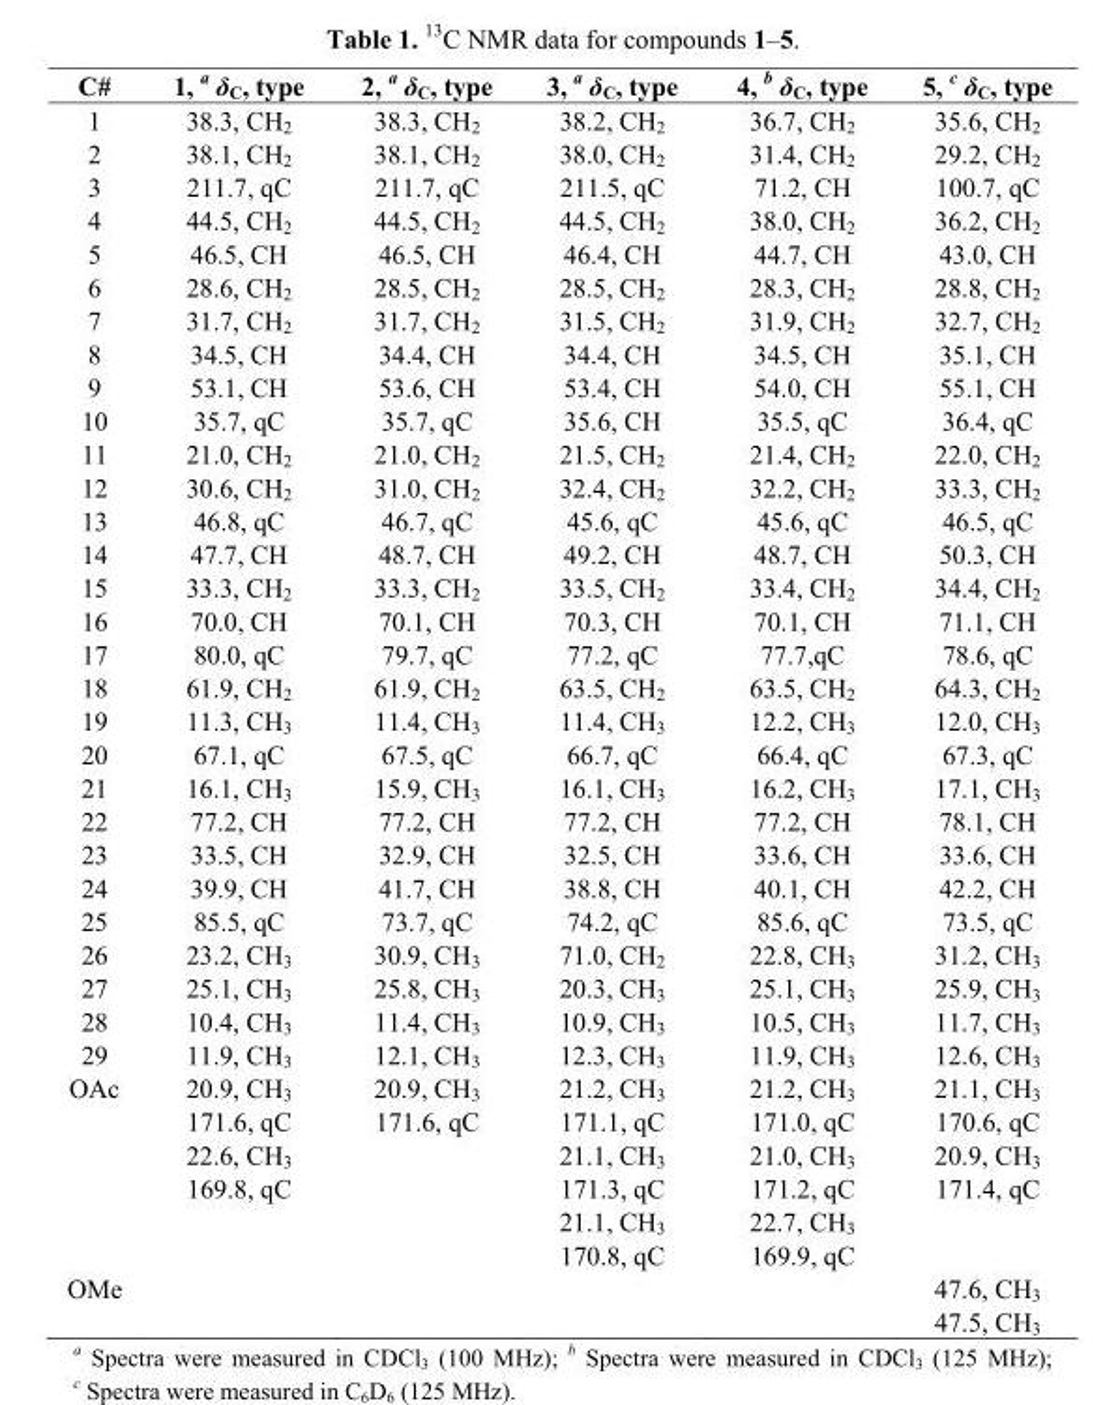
<table><thead><tr><td>C#</td><td>1, a δ<sub>C</sub>, type</td><td>2, a δ<sub>C</sub>, type</td><td>3, a δ<sub>C</sub>, type</td><td>4, b δ<sub>C</sub>, type</td><td>5, c δ<sub>C</sub>, type</td></tr></thead><tbody><tr><td>1</td><td>38.3, CH<sub>2</sub></td><td>38.3, CH<sub>2</sub></td><td>38.2, CH<sub>2</sub></td><td>36.7, CH<sub>2</sub></td><td>35.6, CH<sub>2</sub></td></tr><tr><td>2</td><td>38.1, CH<sub>2</sub></td><td>38.1, CH<sub>2</sub></td><td>38.0, CH<sub>2</sub></td><td>31.4, CH<sub>2</sub></td><td>29.2, CH<sub>2</sub></td></tr><tr><td>3</td><td>211.7, qC</td><td>211.7, qC</td><td>211.5, qC</td><td>71.2, CH</td><td>100.7, qC</td></tr><tr><td>4</td><td>44.5, CH<sub>2</sub></td><td>44.5, CH<sub>2</sub></td><td>44.5, CH<sub>2</sub></td><td>38.0, CH<sub>2</sub></td><td>36.2, CH<sub>2</sub></td></tr><tr><td>5</td><td>46.5, CH</td><td>46.5, CH</td><td>46.4, CH</td><td>44.7, CH</td><td>43.0, CH</td></tr><tr><td>6</td><td>28.6, CH<sub>2</sub></td><td>28.5, CH<sub>2</sub></td><td>28.5, CH<sub>2</sub></td><td>28.3, CH<sub>2</sub></td><td>28.8, CH<sub>2</sub></td></tr><tr><td>7</td><td>31.7, CH<sub>2</sub></td><td>31.7, CH<sub>2</sub></td><td>31.5, CH<sub>2</sub></td><td>31.9, CH<sub>2</sub></td><td>32.7, CH<sub>2</sub></td></tr><tr><td>8</td><td>34.5, CH</td><td>34.4, CH</td><td>34.4, CH</td><td>34.5, CH</td><td>35.1, CH</td></tr><tr><td>9</td><td>53.1, CH</td><td>53.6, CH</td><td>53.4, CH</td><td>54.0, CH</td><td>55.1, CH</td></tr><tr><td>10</td><td>35.7, qC</td><td>35.7, qC</td><td>35.6, CH</td><td>35.5, qC</td><td>36.4, qC</td></tr><tr><td>11</td><td>21.0, CH<sub>2</sub></td><td>21.0, CH<sub>2</sub></td><td>21.5, CH<sub>2</sub></td><td>21.4, CH<sub>2</sub></td><td>22.0, CH<sub>2</sub></td></tr><tr><td>12</td><td>30.6, CH<sub>2</sub></td><td>31.0, CH<sub>2</sub></td><td>32.4, CH<sub>2</sub></td><td>32.2, CH<sub>2</sub></td><td>33.3, CH<sub>2</sub></td></tr><tr><td>13</td><td>46.8, qC</td><td>46.7, qC</td><td>45.6, qC</td><td>45.6, qC</td><td>46.5, qC</td></tr><tr><td>14</td><td>47.7, CH</td><td>48.7, CH</td><td>49.2, CH</td><td>48.7, CH</td><td>50.3, CH</td></tr><tr><td>15</td><td>33.3, CH<sub>2</sub></td><td>33.3, CH<sub>2</sub></td><td>33.5, CH<sub>2</sub></td><td>33.4, CH<sub>2</sub></td><td>34.4, CH<sub>2</sub></td></tr><tr><td>16</td><td>70.0, CH</td><td>70.1, CH</td><td>70.3, CH</td><td>70.1, CH</td><td>71.1, CH</td></tr><tr><td>17</td><td>80.0, qC</td><td>79.7, qC</td><td>77.2, qC</td><td>77.7,qC</td><td>78.6, qC</td></tr><tr><td>18</td><td>61.9, CH<sub>2</sub></td><td>61.9, CH<sub>2</sub></td><td>63.5, CH<sub>2</sub></td><td>63.5, CH<sub>2</sub></td><td>64.3, CH<sub>2</sub></td></tr><tr><td>19</td><td>11.3, CH<sub>3</sub></td><td>11.4, CH<sub>3</sub></td><td>11.4, CH<sub>3</sub></td><td>12.2, CH<sub>3</sub></td><td>12.0, CH<sub>3</sub></td></tr><tr><td>20</td><td>67.1, qC</td><td>67.5, qC</td><td>66.7, qC</td><td>66.4, qC</td><td>67.3, qC</td></tr><tr><td>21</td><td>16.1, CH<sub>3</sub></td><td>15.9, CH<sub>3</sub></td><td>16.1, CH<sub>3</sub></td><td>16.2, CH<sub>3</sub></td><td>17.1, CH<sub>3</sub></td></tr><tr><td>22</td><td>77.2, CH</td><td>77.2, CH</td><td>77.2, CH</td><td>77.2, CH</td><td>78.1, CH</td></tr><tr><td>23</td><td>33.5, CH</td><td>32.9, CH</td><td>32.5, CH</td><td>33.6, CH</td><td>33.6, CH</td></tr><tr><td>24</td><td>39.9, CH</td><td>41.7, CH</td><td>38.8, CH</td><td>40.1, CH</td><td>42.2, CH</td></tr><tr><td>25</td><td>85.5, qC</td><td>73.7, qC</td><td>74.2, qC</td><td>85.6, qC</td><td>73.5, qC</td></tr><tr><td>26</td><td>23.2, CH<sub>3</sub></td><td>30.9, CH<sub>3</sub></td><td>71.0, CH<sub>2</sub></td><td>22.8, CH<sub>3</sub></td><td>31.2, CH<sub>3</sub></td></tr><tr><td>27</td><td>25.1, CH<sub>3</sub></td><td>25.8, CH<sub>3</sub></td><td>20.3, CH<sub>3</sub></td><td>25.1, CH<sub>3</sub></td><td>25.9, CH<sub>3</sub></td></tr><tr><td>28</td><td>10.4, CH<sub>3</sub></td><td>11.4, CH<sub>3</sub></td><td>10.9, CH<sub>3</sub></td><td>10.5, CH<sub>3</sub></td><td>11.7, CH<sub>3</sub></td></tr><tr><td>29</td><td>11.9, CH<sub>3</sub></td><td>12.1, CH<sub>3</sub></td><td>12.3, CH<sub>3</sub></td><td>11.9, CH<sub>3</sub></td><td>12.6, CH<sub>3</sub></td></tr><tr><td rowspan="6">OAc</td><td>20.9, CH<sub>3</sub></td><td>20.9, CH<sub>3</sub></td><td>21.2, CH<sub>3</sub></td><td>21.2, CH<sub>3</sub></td><td>21.1, CH<sub>3</sub></td></tr><tr><td>171.6, qC</td><td>171.6, qC</td><td>171.1, qC</td><td>171.0, qC</td><td>170.6, qC</td></tr><tr><td>22.6, CH<sub>3</sub></td><td></td><td>21.1, CH<sub>3</sub></td><td>21.0, CH<sub>3</sub></td><td>20.9, CH<sub>3</sub></td></tr><tr><td>169.8, qC</td><td></td><td>171.3, qC</td><td>171.2, qC</td><td>171.4, qC</td></tr><tr><td></td><td></td><td>21.1, CH<sub>3</sub></td><td>22.7, CH<sub>3</sub></td><td></td></tr><tr><td></td><td></td><td>170.8, qC</td><td>169.9, qC</td><td></td></tr><tr><td rowspan="2">OMe</td><td></td><td></td><td></td><td></td><td>47.6, CH<sub>3</sub></td></tr><tr><td></td><td></td><td></td><td></td><td>47.5, CH<sub>3</sub></td></tr></tbody></table>